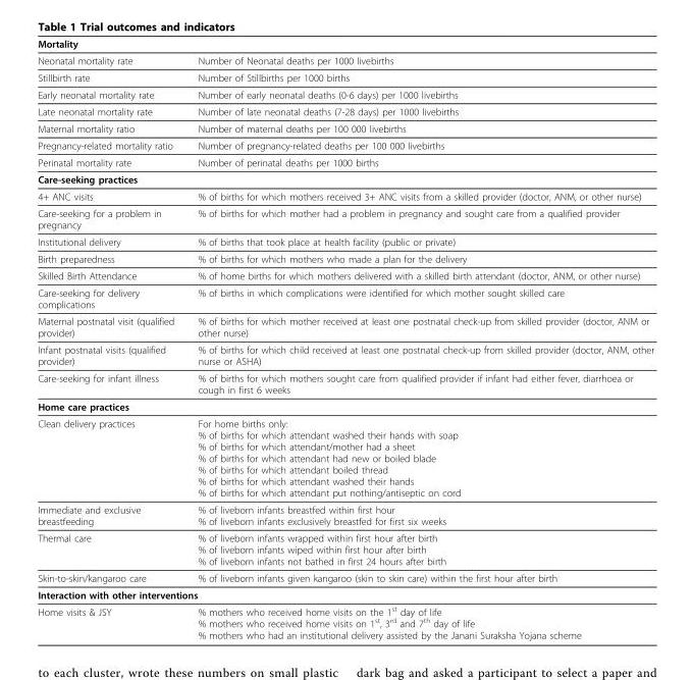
<table><thead><tr><td colspan="2">Mortality</td></tr><tr><td>Neonatal mortality rate</td><td>Number of Neonatal deaths per 1000 livebirths</td></tr></thead><tbody><tr><td>Stillbirth rate</td><td>Number of Stillbirths per 1000 births</td></tr><tr><td>Early neonatal mortality rate</td><td>Number of early neonatal deaths (0-6 days) per 1000 livebirths</td></tr><tr><td>Late neonatal mortality rate</td><td>Number of late neonatal deaths (7-28 days) per 1000 livebirths</td></tr><tr><td>Maternal mortality ratio</td><td>Number of maternal deaths per 100 000 livebirths</td></tr><tr><td>Pregnancy-related mortality ratio</td><td>Number of pregnancy-related deaths per 100 000 livebirths</td></tr><tr><td>Perinatal mortality rate</td><td>Number of perinatal deaths per 1000 births</td></tr><tr><td colspan="2">Care-seeking practices</td></tr><tr><td>4+ ANC visits</td><td>% of births for which mothers received 3+ ANC visits from a skilled provider (doctor, ANM, or other nurse)</td></tr><tr><td>Care-seeking for a problem in pregnancy</td><td>% of births for which mother had a problem in pregnancy and sought care from a qualified provider</td></tr><tr><td>Institutional delivery</td><td>% of births that took place at health facility (public or private)</td></tr><tr><td>Birth preparedness</td><td>% of births for which mothers who made a plan for the delivery</td></tr><tr><td>Skilled Birth Attendance</td><td>% of home births for which mothers delivered with a skilled birth attendant (doctor, ANM, or other nurse)</td></tr><tr><td>Care-seeking for delivery complications</td><td>% of births in which complications were identified for which mother sought skilled care</td></tr><tr><td>Maternal postnatal visit (qualified provider)</td><td>% of births for which mother received at least one postnatal check-up from skilled provider (doctor, ANM or other nurse)</td></tr><tr><td>Infant postnatal visits (qualified provider)</td><td>% of births for which child received at least one postnatal check-up from skilled provider (doctor, ANM, other nurse or ASHA)</td></tr><tr><td>Care-seeking for infant illness</td><td>% of births for which mothers sought care from qualified provider if infant had either fever, diarrhoea or cough in first 6 weeks</td></tr><tr><td colspan="2">Home care practices</td></tr><tr><td>Clean delivery practices</td><td>For home births only: % of births for which attendant washed their hands with soap % of births for which attendant/mother had a sheet % of births for which attendant had new or boiled blade % of births for which attendant boiled thread % of births for which attendant washed their hands % of births for which attendant put nothing/antiseptic on cord</td></tr><tr><td>Immediate and exclusive breastfeeding</td><td>% of liveborn infants breastfed within first hour % of liveborn infants exclusively breastfed for first six weeks</td></tr><tr><td>Thermal care</td><td>% of liveborn infants wrapped within first hour after birth % of liveborn infants wiped within first hour after birth % of liveborn infants not bathed in first 24 hours after birth</td></tr><tr><td>Skin-to-skin/kangaroo care</td><td>% of liveborn infants given kangaroo (skin to skin care) within the first hour after birth</td></tr><tr><td colspan="2">Interaction with other interventions</td></tr><tr><td>Home visits &amp; JSY</td><td>% mothers who received home visits on the 1<sup>st</sup> day of life % mothers who received home visits on 1<sup>st</sup>, 3<sup>rd</sup> and 7<sup>th</sup> day of life % mothers who had an institutional delivery assisted by the Janani Suraksha Yojana scheme</td></tr></tbody></table>